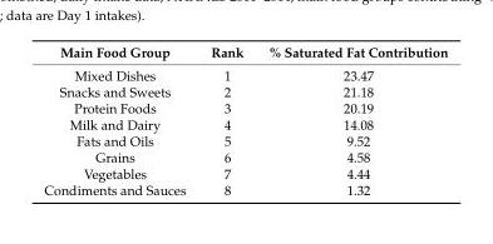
<table><thead><tr><td>Main Food Group</td><td>Rank</td><td>% Saturated Fat Contribution</td></tr></thead><tbody><tr><td>Mixed Dishes</td><td>1</td><td>23.47</td></tr><tr><td>Snacks and Sweets</td><td>2</td><td>21.18</td></tr><tr><td>Protein Foods</td><td>3</td><td>20.19</td></tr><tr><td>Milk and Dairy</td><td>4</td><td>14.08</td></tr><tr><td>Fats and Oils</td><td>5</td><td>9.52</td></tr><tr><td>Grains</td><td>6</td><td>4.58</td></tr><tr><td>Vegetables</td><td>7</td><td>4.44</td></tr><tr><td>Condiments and Sauces</td><td>8</td><td>1.32</td></tr></tbody></table>